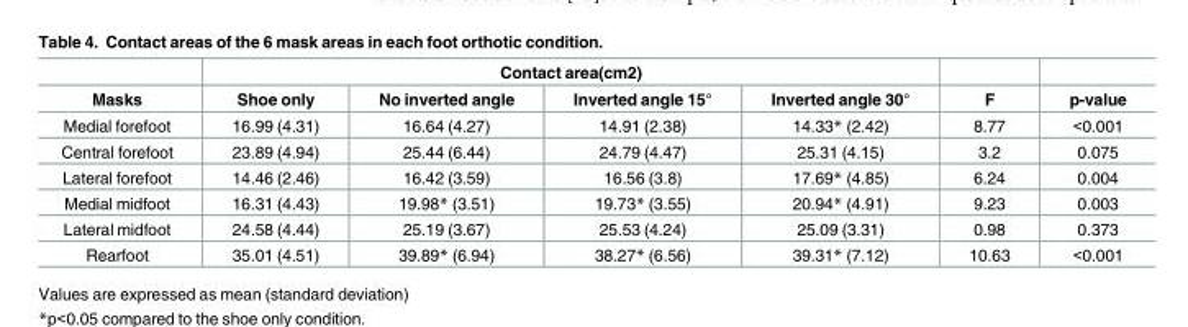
<table><thead><tr><td rowspan="2">Masks</td><td colspan="4">Contact area(cm2)</td><td rowspan="2">F</td><td rowspan="2">p-value</td></tr><tr><td>Shoe only</td><td>No inverted angle</td><td>Inverted angle 15°</td><td>Inverted angle 30°</td></tr></thead><tbody><tr><td>Medial forefoot</td><td>16.99 (4.31)</td><td>16.64 (4.27)</td><td>14.91 (2.38)</td><td>14.33* (2.42)</td><td>8.77</td><td>&lt;0.001</td></tr><tr><td>Central forefoot</td><td>23.89 (4.94)</td><td>25.44 (6.44)</td><td>24.79 (4.47)</td><td>25.31 (4.15)</td><td>3.2</td><td>0.075</td></tr><tr><td>Lateral forefoot</td><td>14.46 (2.46)</td><td>16.42 (3.59)</td><td>16.56 (3.8)</td><td>17.69* (4.85)</td><td>6.24</td><td>0.004</td></tr><tr><td>Medial midfoot</td><td>16.31 (4.43)</td><td>19.98* (3.51)</td><td>19.73* (3.55)</td><td>20.94* (4.91)</td><td>9.23</td><td>0.003</td></tr><tr><td>Lateral midfoot</td><td>24.58 (4.44)</td><td>25.19 (3.67)</td><td>25.53 (4.24)</td><td>25.09 (3.31)</td><td>0.98</td><td>0.373</td></tr><tr><td>Rearfoot</td><td>35.01 (4.51)</td><td>39.89* (6.94)</td><td>38.27* (6.56)</td><td>39.31* (7.12)</td><td>10.63</td><td>&lt;0.001</td></tr></tbody></table>